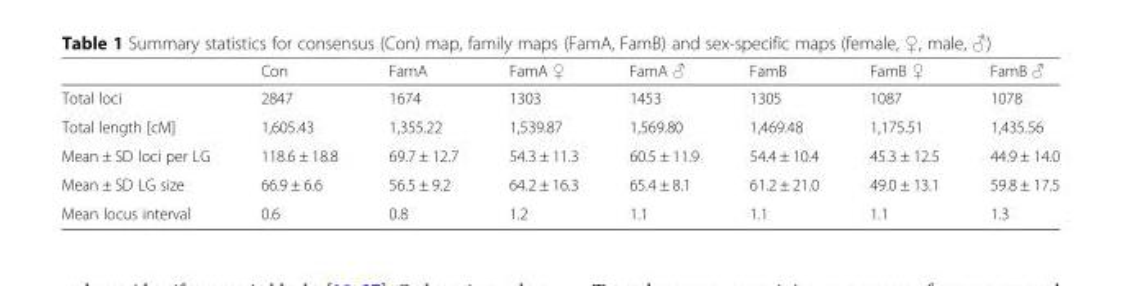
<table><thead><tr><td></td><td>Con</td><td>FamA</td><td>FamA ♀</td><td>FamA ♂</td><td>FamB</td><td>FamB ♀</td><td>FamB ♂</td></tr></thead><tbody><tr><td>Total loci</td><td>2847</td><td>1674</td><td>1303</td><td>1453</td><td>1305</td><td>1087</td><td>1078</td></tr><tr><td>Total length [cM]</td><td>1,605.43</td><td>1,355.22</td><td>1,539.87</td><td>1,569.80</td><td>1,469.48</td><td>1,175.51</td><td>1,435.56</td></tr><tr><td>Mean ± SD loci per LG</td><td>118.6 ± 18.8</td><td>69.7 ± 12.7</td><td>54.3 ± 11.3</td><td>60.5 ± 11.9</td><td>54.4 ± 10.4</td><td>45.3 ± 12.5</td><td>44.9 ± 14.0</td></tr><tr><td>Mean ± SD LG size</td><td>66.9 ± 6.6</td><td>56.5 ± 9.2</td><td>64.2 ± 16.3</td><td>65.4 ± 8.1</td><td>61.2 ± 21.0</td><td>49.0 ± 13.1</td><td>59.8 ± 17.5</td></tr><tr><td>Mean locus interval</td><td>0.6</td><td>0.8</td><td>1.2</td><td>1.1</td><td>1.1</td><td>1.1</td><td>1.3</td></tr></tbody></table>